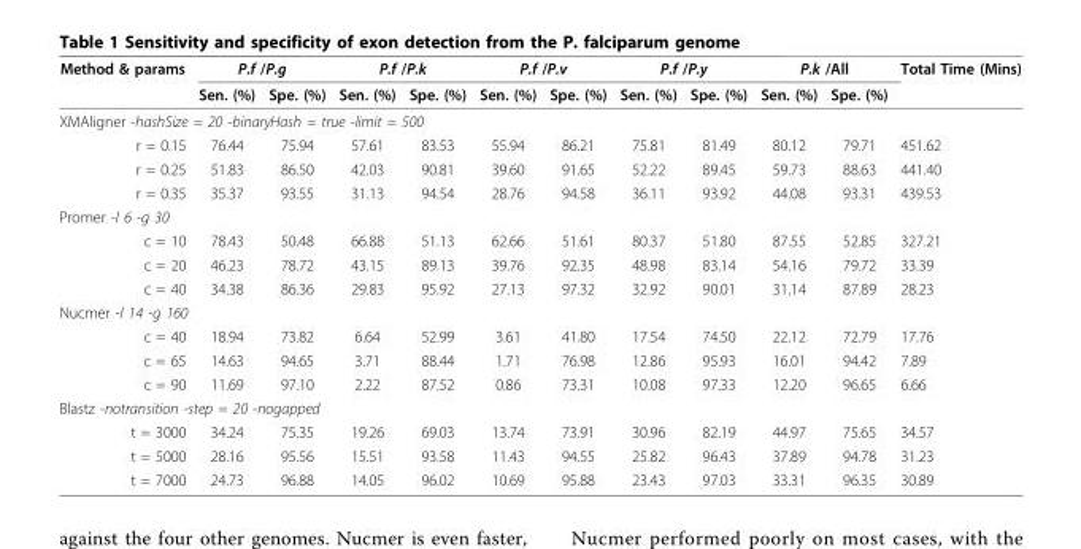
<table><thead><tr><td rowspan="2">Method &amp; params</td><td colspan="2">P.f /P.g</td><td colspan="2">P.f /P.k</td><td colspan="2">P.f /P.v</td><td colspan="2">P.f /P.y</td><td colspan="2">P.k /All</td><td rowspan="2">Total Time (Mins)</td></tr><tr><td>Sen. (%)</td><td>Spe. (%)</td><td>Sen. (%)</td><td>Spe. (%)</td><td>Sen. (%)</td><td>Spe. (%)</td><td>Sen. (%)</td><td>Spe. (%)</td><td>Sen. (%)</td><td>Spe. (%)</td></tr></thead><tbody><tr><td colspan="12">XMAligner -hashSize = 20 -binaryHash = true -limit = 500</td></tr><tr><td>r = 0.15</td><td>76.44</td><td>75.94</td><td>57.61</td><td>83.53</td><td>55.94</td><td>86.21</td><td>75.81</td><td>81.49</td><td>80.12</td><td>79.71</td><td>451.62</td></tr><tr><td>r = 0.25</td><td>51.83</td><td>86.50</td><td>42.03</td><td>90.81</td><td>39.60</td><td>91.65</td><td>52.22</td><td>89.45</td><td>59.73</td><td>88.63</td><td>441.40</td></tr><tr><td>r = 0.35</td><td>35.37</td><td>93.55</td><td>31.13</td><td>94.54</td><td>28.76</td><td>94.58</td><td>36.11</td><td>93.92</td><td>44.08</td><td>93.31</td><td>439.53</td></tr><tr><td colspan="12">Promer -l 6 -g 30</td></tr><tr><td>c = 10</td><td>78.43</td><td>50.48</td><td>66.88</td><td>51.13</td><td>62.66</td><td>51.61</td><td>80.37</td><td>51.80</td><td>87.55</td><td>52.85</td><td>327.21</td></tr><tr><td>c = 20</td><td>46.23</td><td>78.72</td><td>43.15</td><td>89.13</td><td>39.76</td><td>92.35</td><td>48.98</td><td>83.14</td><td>54.16</td><td>79.72</td><td>33.39</td></tr><tr><td>c = 40</td><td>34.38</td><td>86.36</td><td>29.83</td><td>95.92</td><td>27.13</td><td>97.32</td><td>32.92</td><td>90.01</td><td>31.14</td><td>87.89</td><td>28.23</td></tr><tr><td colspan="12">Nucmer -l 14 -g 160</td></tr><tr><td>c = 40</td><td>18.94</td><td>73.82</td><td>6.64</td><td>52.99</td><td>3.61</td><td>41.80</td><td>17.54</td><td>74.50</td><td>22.12</td><td>72.79</td><td>17.76</td></tr><tr><td>c = 65</td><td>14.63</td><td>94.65</td><td>3.71</td><td>88.44</td><td>1.71</td><td>76.98</td><td>12.86</td><td>95.93</td><td>16.01</td><td>94.42</td><td>7.89</td></tr><tr><td>c = 90</td><td>11.69</td><td>97.10</td><td>2.22</td><td>87.52</td><td>0.86</td><td>73.31</td><td>10.08</td><td>97.33</td><td>12.20</td><td>96.65</td><td>6.66</td></tr><tr><td colspan="12">Blastz -notransition -step = 20 -nogapped</td></tr><tr><td>t = 3000</td><td>34.24</td><td>75.35</td><td>19.26</td><td>69.03</td><td>13.74</td><td>73.91</td><td>30.96</td><td>82.19</td><td>44.97</td><td>75.65</td><td>34.57</td></tr><tr><td>t = 5000</td><td>28.16</td><td>95.56</td><td>15.51</td><td>93.58</td><td>11.43</td><td>94.55</td><td>25.82</td><td>96.43</td><td>37.89</td><td>94.78</td><td>31.23</td></tr><tr><td>t = 7000</td><td>24.73</td><td>96.88</td><td>14.05</td><td>96.02</td><td>10.69</td><td>95.88</td><td>23.43</td><td>97.03</td><td>33.31</td><td>96.35</td><td>30.89</td></tr></tbody></table>